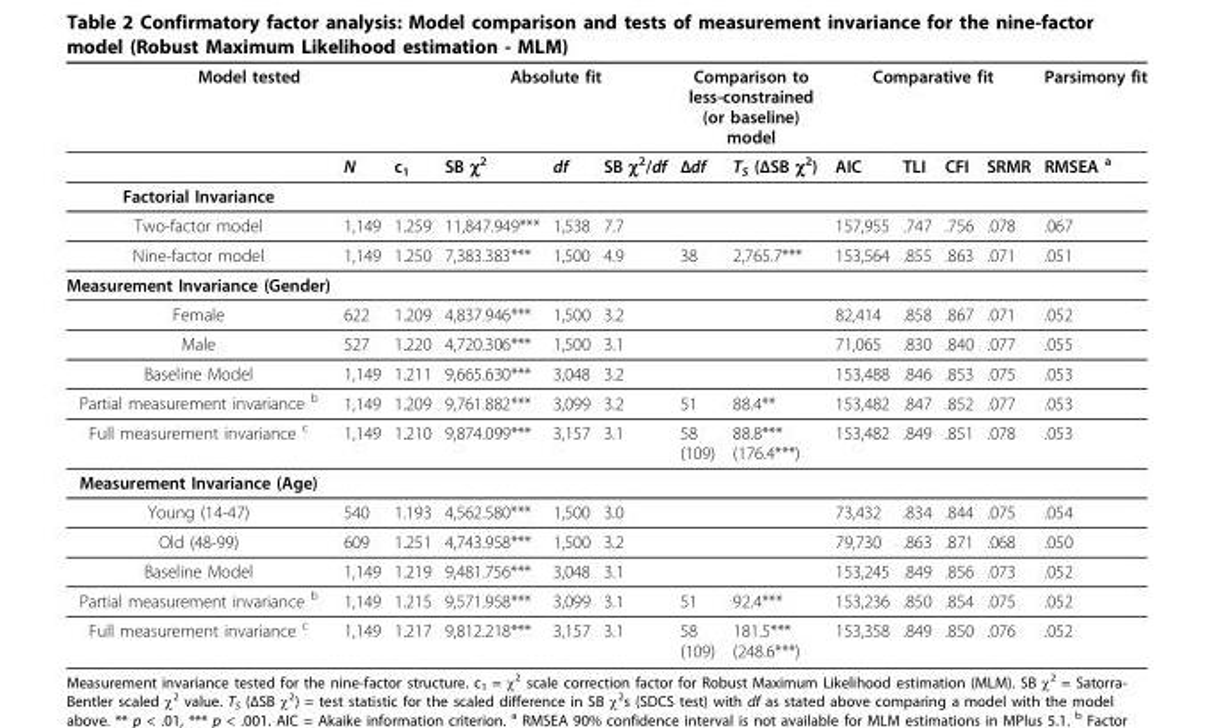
<table><thead><tr><td colspan="3">Model tested</td><td colspan="3">Absolute fit</td><td colspan="2">Comparison to less-constrained (or baseline) model</td><td colspan="4">Comparative fit</td><td rowspan="2">Parsimony fit RMSEA <sup>a</sup></td></tr><tr><td></td><td>N</td><td>c<sub>1</sub></td><td>SB χ<sup>2</sup></td><td>df</td><td>SB χ<sup>2</sup>/df</td><td>Δdf</td><td>T<sub>S</sub> (ΔSB χ<sup>2</sup>)</td><td>AIC</td><td>TLI</td><td>CFI</td><td>SRMR</td></tr></thead><tbody><tr><td colspan="13">Factorial Invariance</td></tr><tr><td>Two-factor model</td><td>1,149</td><td>1.259</td><td>11,847.949***</td><td>1,538</td><td>7.7</td><td></td><td></td><td>157,955</td><td>.747</td><td>.756</td><td>.078</td><td>.067</td></tr><tr><td>Nine-factor model</td><td>1,149</td><td>1.250</td><td>7,383.383***</td><td>1,500</td><td>4.9</td><td>38</td><td>2,765.7***</td><td>153,564</td><td>.855</td><td>.863</td><td>.071</td><td>.051</td></tr><tr><td colspan="13">Measurement Invariance (Gender)</td></tr><tr><td>Female</td><td>622</td><td>1.209</td><td>4,837.946***</td><td>1,500</td><td>3.2</td><td></td><td></td><td>82,414</td><td>.858</td><td>.867</td><td>.071</td><td>.052</td></tr><tr><td>Male</td><td>527</td><td>1.220</td><td>4,720.306***</td><td>1,500</td><td>3.1</td><td></td><td></td><td>71,065</td><td>.830</td><td>.840</td><td>.077</td><td>.055</td></tr><tr><td>Baseline Model</td><td>1,149</td><td>1.211</td><td>9,665.630***</td><td>3,048</td><td>3.2</td><td></td><td></td><td>153,488</td><td>.846</td><td>.853</td><td>.075</td><td>.053</td></tr><tr><td>Partial measurement invariance <sup>b</sup></td><td>1,149</td><td>1.209</td><td>9,761.882***</td><td>3,099</td><td>3.2</td><td>51</td><td>88.4**</td><td>153,482</td><td>.847</td><td>.852</td><td>.077</td><td>.053</td></tr><tr><td>Full measurement invariance <sup>c</sup></td><td>1,149</td><td>1.210</td><td>9,874.099***</td><td>3,157</td><td>3.1</td><td>58 (109)</td><td>88.8*** (176.4***)</td><td>153,482</td><td>.849</td><td>.851</td><td>.078</td><td>.053</td></tr><tr><td colspan="13">Measurement Invariance (Age)</td></tr><tr><td>Young (14-47)</td><td>540</td><td>1.193</td><td>4,562.580***</td><td>1,500</td><td>3.0</td><td></td><td></td><td>73,432</td><td>.834</td><td>.844</td><td>.075</td><td>.054</td></tr><tr><td>Old (48-99)</td><td>609</td><td>1.251</td><td>4,743.958***</td><td>1,500</td><td>3.2</td><td></td><td></td><td>79,730</td><td>.863</td><td>.871</td><td>.068</td><td>.050</td></tr><tr><td>Baseline Model</td><td>1,149</td><td>1.219</td><td>9,481.756***</td><td>3,048</td><td>3.1</td><td></td><td></td><td>153,245</td><td>.849</td><td>.856</td><td>.073</td><td>.052</td></tr><tr><td>Partial measurement invariance <sup>b</sup></td><td>1,149</td><td>1.215</td><td>9,571.958***</td><td>3,099</td><td>3.1</td><td>51</td><td>92.4***</td><td>153,236</td><td>.850</td><td>.854</td><td>.075</td><td>.052</td></tr><tr><td>Full measurement invariance <sup>c</sup></td><td>1,149</td><td>1.217</td><td>9,812.218***</td><td>3,157</td><td>3.1</td><td>58 (109)</td><td>181.5*** (248.6***)</td><td>153,358</td><td>.849</td><td>.850</td><td>.076</td><td>.052</td></tr></tbody></table>